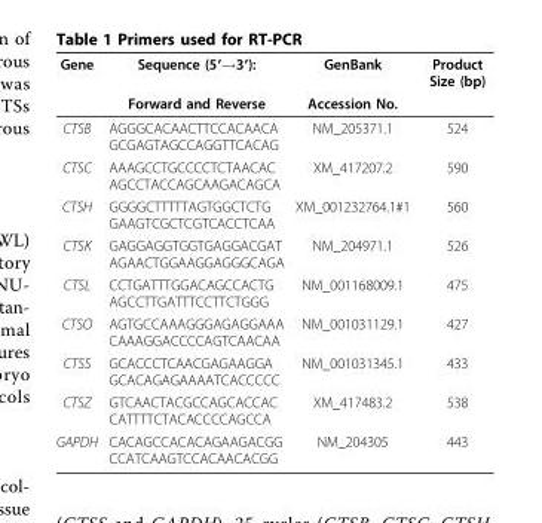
<table><thead><tr><td rowspan="2">Gene</td><td rowspan="2">Sequence (5′→3′): Forward and Reverse</td><td rowspan="2">GenBank Accession No.</td><td rowspan="2">Product Size (bp)</td></tr><tr></tr></thead><tbody><tr><td>CTSB</td><td>AGGGCACAACTTCCACAACA GCGAGTAGCCAGGTTCACAG</td><td>NM_205371.1</td><td>524</td></tr><tr><td>CTSC</td><td>AAAGCCTGCCCCTCTAACAC AGCCTACCAGCAAGACAGCA</td><td>XM_417207.2</td><td>590</td></tr><tr><td>CTSH</td><td>GGGGCTTTTTAGTGGCTCTG GAAGTCGCTCGTCACCTCAA</td><td>XM_001232764.1#1</td><td>560</td></tr><tr><td>CTSK</td><td>GAGGAGGTGGTGAGGACGAT AGAACTGGAAGGAGGGCAGA</td><td>NM_204971.1</td><td>526</td></tr><tr><td>CTSL</td><td>CCTGATTTGGACAGCCACTG AGCCTTGATTTCCTTCTGGG</td><td>NM_001168009.1</td><td>475</td></tr><tr><td>CTSO</td><td>AGTGCCAAAGGGAGAGGAAA CAAAGGACCCCAGTCAACAA</td><td>NM_001031129.1</td><td>427</td></tr><tr><td>CTSS</td><td>GCACCCTCAACGAGAAGGA GCACAGAGAAAATCACCCCC</td><td>NM_001031345.1</td><td>433</td></tr><tr><td>CTSZ</td><td>GTCAACTACGCCAGCACCAC CATTTTCTACACCCCAGCCA</td><td>XM_417483.2</td><td>538</td></tr><tr><td>GAPDH</td><td>CACAGCCACACAGAAGACGG CCATCAAGTCCACAACACGG</td><td>NM_204305</td><td>443</td></tr></tbody></table>